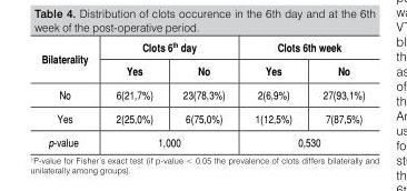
<table><tbody><tr><td rowspan="2">Bilaterality</td><td colspan="2">Clots 6<sup>th</sup> day</td><td colspan="2">Clots 6th week</td></tr><tr><td>Yes</td><td>No</td><td>Yes</td><td>No</td></tr><tr><td>No</td><td>6(21,7%)</td><td>23(78,3%)</td><td>2(6,9%)</td><td>27(93,1%)</td></tr><tr><td>Yes</td><td>2(25,0%)</td><td>6(75,0%)</td><td>1(12,5%)</td><td>7(87,5%)</td></tr><tr><td>p-value¹</td><td colspan="2">1,000</td><td>0,530</td><td></td></tr></tbody></table>